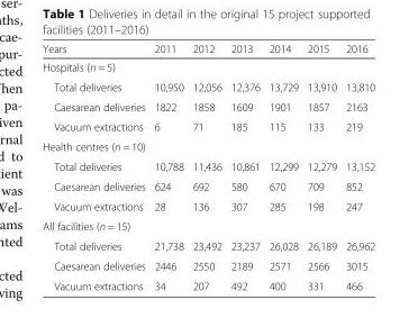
<table><thead><tr><td>Years</td><td>2011</td><td>2012</td><td>2013</td><td>2014</td><td>2015</td><td>2016</td></tr></thead><tbody><tr><td colspan="7">Hospitals (n = 5)</td></tr><tr><td>Total deliveries</td><td>10,950</td><td>12,056</td><td>12,376</td><td>13,729</td><td>13,910</td><td>13,810</td></tr><tr><td>Caesarean deliveries</td><td>1822</td><td>1858</td><td>1609</td><td>1901</td><td>1857</td><td>2163</td></tr><tr><td>Vacuum extractions</td><td>6</td><td>71</td><td>185</td><td>115</td><td>133</td><td>219</td></tr><tr><td colspan="7">Health centres (n = 10)</td></tr><tr><td>Total deliveries</td><td>10,788</td><td>11,436</td><td>10,861</td><td>12,299</td><td>12,279</td><td>13,152</td></tr><tr><td>Caesarean deliveries</td><td>624</td><td>692</td><td>580</td><td>670</td><td>709</td><td>852</td></tr><tr><td>Vacuum extractions</td><td>28</td><td>136</td><td>307</td><td>285</td><td>198</td><td>247</td></tr><tr><td colspan="7">All facilities (n = 15)</td></tr><tr><td>Total deliveries</td><td>21,738</td><td>23,492</td><td>23,237</td><td>26,028</td><td>26,189</td><td>26,962</td></tr><tr><td>Caesarean deliveries</td><td>2446</td><td>2550</td><td>2189</td><td>2571</td><td>2566</td><td>3015</td></tr><tr><td>Vacuum extractions</td><td>34</td><td>207</td><td>492</td><td>400</td><td>331</td><td>466</td></tr></tbody></table>